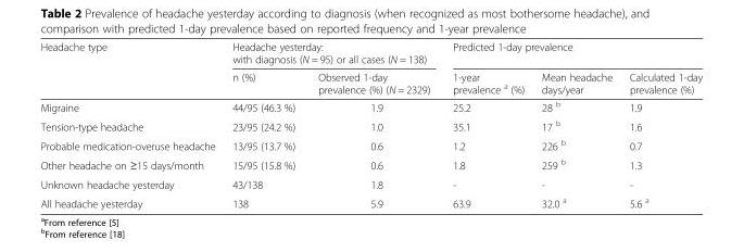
<table><thead><tr><td rowspan="2">Headache type</td><td colspan="2">Headache yesterday: with diagnosis (N = 95) or all cases (N = 138)</td><td colspan="3">Predicted 1-day prevalence</td></tr><tr><td>n (%)</td><td>Observed 1-day prevalence (%) (N = 2329)</td><td>1-year prevalence <sup>a</sup> (%)</td><td>Mean headache days/year</td><td>Calculated 1-day prevalence (%)</td></tr></thead><tbody><tr><td>Migraine</td><td>44/95 (46.3 %)</td><td>1.9</td><td>25.2</td><td>28 <sup>b</sup></td><td>1.9</td></tr><tr><td>Tension-type headache</td><td>23/95 (24.2 %)</td><td>1.0</td><td>35.1</td><td>17 <sup>b</sup></td><td>1.6</td></tr><tr><td>Probable medication-overuse headache</td><td>13/95 (13.7 %)</td><td>0.6</td><td>1.2</td><td>226 <sup>b</sup></td><td>0.7</td></tr><tr><td>Other headache on ≥15 days/month</td><td>15/95 (15.8 %)</td><td>0.6</td><td>1.8</td><td>259 <sup>b</sup></td><td>1.3</td></tr><tr><td>Unknown headache yesterday</td><td>43/138</td><td>1.8</td><td>-</td><td>-</td><td>-</td></tr><tr><td>All headache yesterday</td><td>138</td><td>5.9</td><td>63.9</td><td>32.0 <sup>a</sup></td><td>5.6 <sup>a</sup></td></tr></tbody></table>